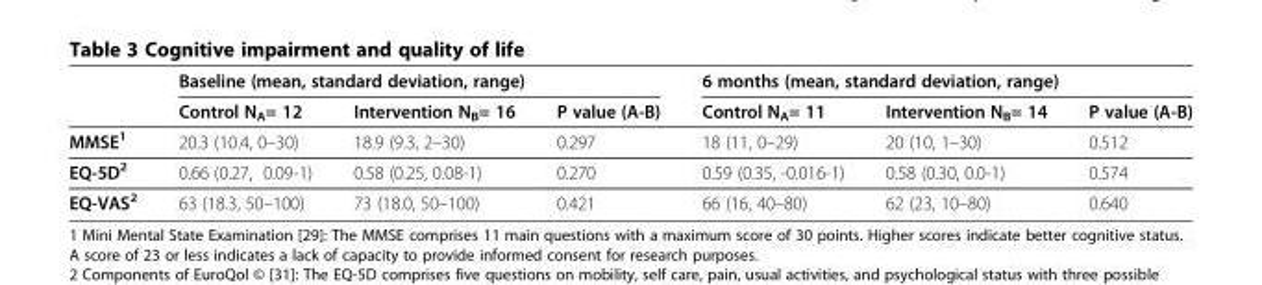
<table><thead><tr><td rowspan="2"></td><td colspan="3">Baseline (mean, standard deviation, range)</td><td colspan="3">6 months (mean, standard deviation, range)</td></tr><tr><td>Control N<sub>A</sub>= 12</td><td>Intervention N<sub>B</sub>= 16</td><td>P value (A-B)</td><td>Control N<sub>A</sub>= 11</td><td>Intervention N<sub>B</sub>= 14</td><td>P value (A-B)</td></tr></thead><tbody><tr><td>MMSE<sup>1</sup></td><td>20.3 (10.4, 0–30)</td><td>18.9 (9.3, 2–30)</td><td>0.297</td><td>18 (11, 0–29)</td><td>20 (10, 1–30)</td><td>0.512</td></tr><tr><td>EQ-5D<sup>2</sup></td><td>0.66 (0.27, 0.09-1)</td><td>0.58 (0.25, 0.08-1)</td><td>0.270</td><td>0.59 (0.35, -0.016-1)</td><td>0.58 (0.30, 0.0-1)</td><td>0.574</td></tr><tr><td>EQ-VAS<sup>2</sup></td><td>63 (18.3, 50–100)</td><td>73 (18.0, 50–100)</td><td>0.421</td><td>66 (16, 40–80)</td><td>62 (23, 10–80)</td><td>0.640</td></tr></tbody></table>